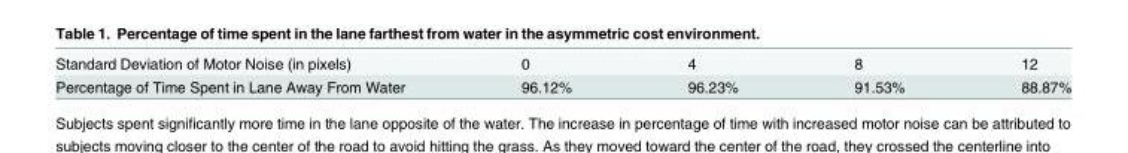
<table><tbody><tr><td>Standard Deviation of Motor Noise (in pixels)</td><td>0</td><td>4</td><td>8</td><td>12</td></tr><tr><td>Percentage of Time Spent in Lane Away From Water</td><td>96.12%</td><td>96.23%</td><td>91.53%</td><td>88.87%</td></tr></tbody></table>